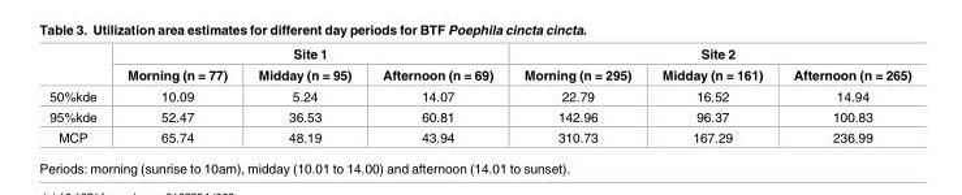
<table><thead><tr><td rowspan="2"></td><td colspan="3">Site 1</td><td colspan="3">Site 2</td></tr><tr><td>Morning (n = 77)</td><td>Midday (n = 95)</td><td>Afternoon (n = 69)</td><td>Morning (n = 295)</td><td>Midday (n = 161)</td><td>Afternoon (n = 265)</td></tr></thead><tbody><tr><td>50%kde</td><td>10.09</td><td>5.24</td><td>14.07</td><td>22.79</td><td>16.52</td><td>14.94</td></tr><tr><td>95%kde</td><td>52.47</td><td>36.53</td><td>60.81</td><td>142.96</td><td>96.37</td><td>100.83</td></tr><tr><td>MCP</td><td>65.74</td><td>48.19</td><td>43.94</td><td>310.73</td><td>167.29</td><td>236.99</td></tr></tbody></table>